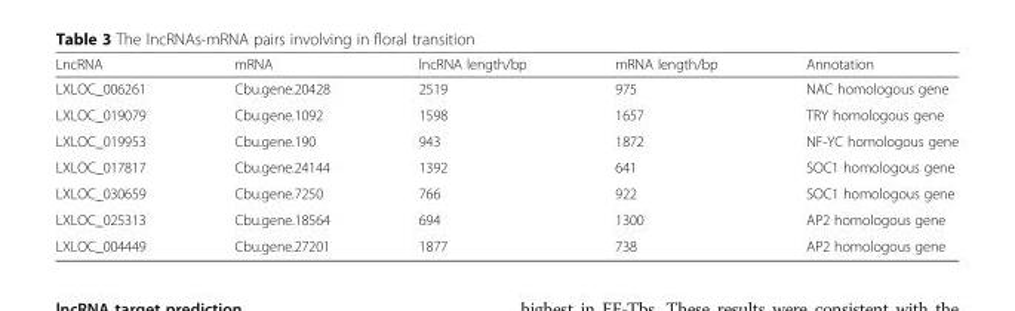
<table><thead><tr><td>LncRNA</td><td>mRNA</td><td>lncRNA length/bp</td><td>mRNA length/bp</td><td>Annotation</td></tr></thead><tbody><tr><td>LXLOC_006261</td><td>Cbu.gene.20428</td><td>2519</td><td>975</td><td>NAC homologous gene</td></tr><tr><td>LXLOC_019079</td><td>Cbu.gene.1092</td><td>1598</td><td>1657</td><td>TRY homologous gene</td></tr><tr><td>LXLOC_019953</td><td>Cbu.gene.190</td><td>943</td><td>1872</td><td>NF-YC homologous gene</td></tr><tr><td>LXLOC_017817</td><td>Cbu.gene.24144</td><td>1392</td><td>641</td><td>SOC1 homologous gene</td></tr><tr><td>LXLOC_030659</td><td>Cbu.gene.7250</td><td>766</td><td>922</td><td>SOC1 homologous gene</td></tr><tr><td>LXLOC_025313</td><td>Cbu.gene.18564</td><td>694</td><td>1300</td><td>AP2 homologous gene</td></tr><tr><td>LXLOC_004449</td><td>Cbu.gene.27201</td><td>1877</td><td>738</td><td>AP2 homologous gene</td></tr></tbody></table>